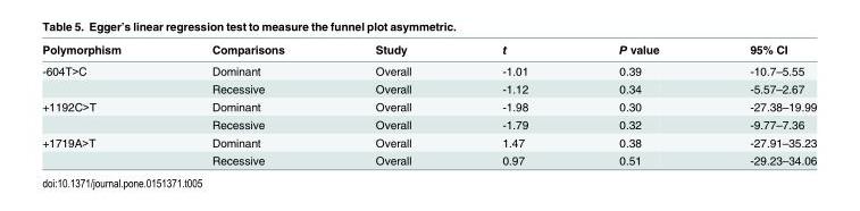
<table><thead><tr><td>Polymorphism</td><td>Comparisons</td><td>Study</td><td>t</td><td>P value</td><td>95% CI</td></tr></thead><tbody><tr><td rowspan="2">-604T&gt;C</td><td>Dominant</td><td>Overall</td><td>-1.01</td><td>0.39</td><td>-10.7–5.55</td></tr><tr><td>Recessive</td><td>Overall</td><td>-1.12</td><td>0.34</td><td>-5.57–2.67</td></tr><tr><td rowspan="2">+1192C&gt;T</td><td>Dominant</td><td>Overall</td><td>-1.98</td><td>0.30</td><td>-27.38–19.99</td></tr><tr><td>Recessive</td><td>Overall</td><td>-1.79</td><td>0.32</td><td>-9.77–7.36</td></tr><tr><td rowspan="2">+1719A&gt;T</td><td>Dominant</td><td>Overall</td><td>1.47</td><td>0.38</td><td>-27.91–35.23</td></tr><tr><td>Recessive</td><td>Overall</td><td>0.97</td><td>0.51</td><td>-29.23–34.06</td></tr></tbody></table>